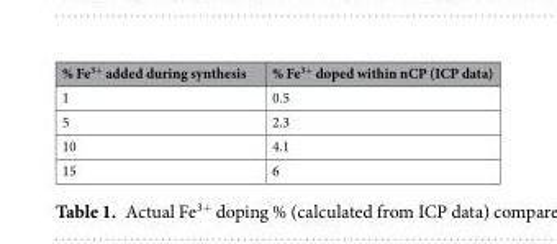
<table><thead><tr><td>% Fe<sup>3+</sup> added during synthesis</td><td>% Fe<sup>3+</sup> doped within nCP (ICP data)</td></tr></thead><tbody><tr><td>1</td><td>0.5</td></tr><tr><td>5</td><td>2.3</td></tr><tr><td>10</td><td>4.1</td></tr><tr><td>15</td><td>6</td></tr></tbody></table>